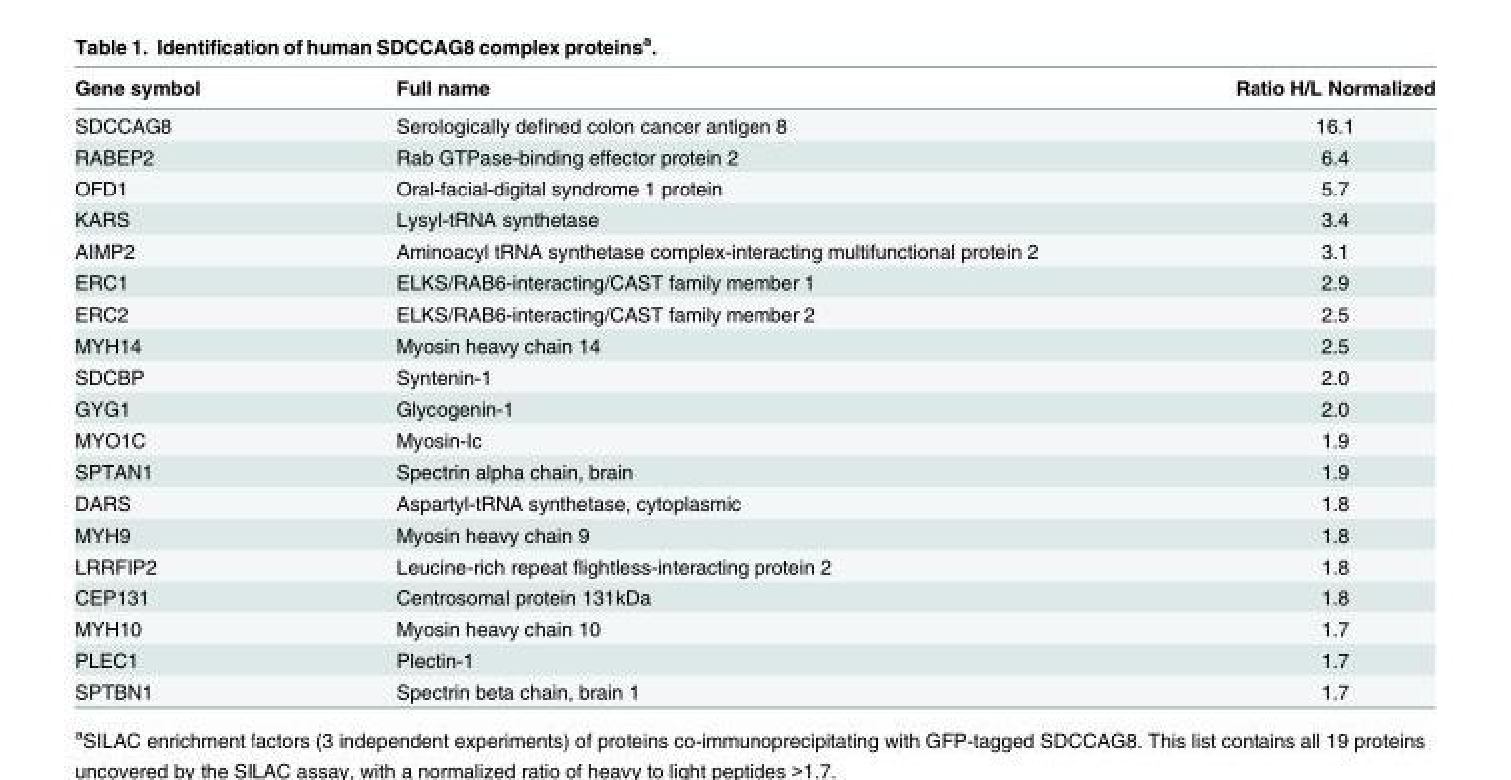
<table><thead><tr><td>Gene symbol</td><td>Full name</td><td>Ratio H/L Normalized</td></tr></thead><tbody><tr><td>SDCCAG8</td><td>Serologically defined colon cancer antigen 8</td><td>16.1</td></tr><tr><td>RABEP2</td><td>Rab GTPase-binding effector protein 2</td><td>6.4</td></tr><tr><td>OFD1</td><td>Oral-facial-digital syndrome 1 protein</td><td>5.7</td></tr><tr><td>KARS</td><td>Lysyl-tRNA synthetase</td><td>3.4</td></tr><tr><td>AIMP2</td><td>Aminoacyl tRNA synthetase complex-interacting multifunctional protein 2</td><td>3.1</td></tr><tr><td>ERC1</td><td>ELKS/RAB6-interacting/CAST family member 1</td><td>2.9</td></tr><tr><td>ERC2</td><td>ELKS/RAB6-interacting/CAST family member 2</td><td>2.5</td></tr><tr><td>MYH14</td><td>Myosin heavy chain 14</td><td>2.5</td></tr><tr><td>SDCBP</td><td>Syntenin-1</td><td>2.0</td></tr><tr><td>GYG1</td><td>Glycogenin-1</td><td>2.0</td></tr><tr><td>MYO1C</td><td>Myosin-Ic</td><td>1.9</td></tr><tr><td>SPTAN1</td><td>Spectrin alpha chain, brain</td><td>1.9</td></tr><tr><td>DARS</td><td>Aspartyl-tRNA synthetase, cytoplasmic</td><td>1.8</td></tr><tr><td>MYH9</td><td>Myosin heavy chain 9</td><td>1.8</td></tr><tr><td>LRRFIP2</td><td>Leucine-rich repeat flightless-interacting protein 2</td><td>1.8</td></tr><tr><td>CEP131</td><td>Centrosomal protein 131kDa</td><td>1.8</td></tr><tr><td>MYH10</td><td>Myosin heavy chain 10</td><td>1.7</td></tr><tr><td>PLEC1</td><td>Plectin-1</td><td>1.7</td></tr><tr><td>SPTBN1</td><td>Spectrin beta chain, brain 1</td><td>1.7</td></tr></tbody></table>